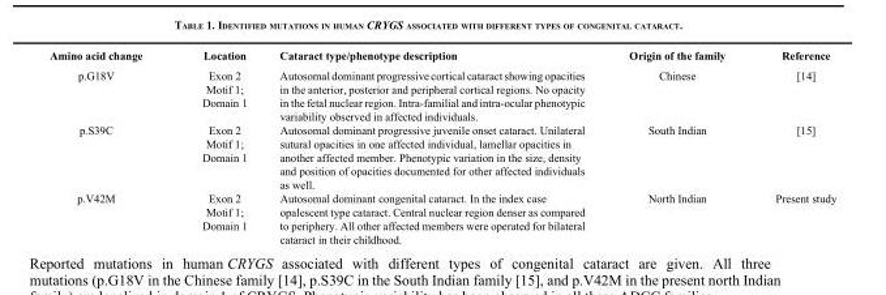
<table><thead><tr><td>Amino acid change</td><td>Location</td><td>Cataract type/phenotype description</td><td>Origin of the family</td><td>Reference</td></tr></thead><tbody><tr><td>p.G18V</td><td>Exon 2 Motif 1; Domain 1</td><td>Autosomal dominant progressive cortical cataract showing opacities in the anterior, posterior and peripheral cortical regions. No opacity in the fetal nuclear region. Intra-familial and intra-ocular phenotypic variability observed in affected individuals.</td><td>Chinese</td><td>[14]</td></tr><tr><td>p.S39C</td><td>Exon 2 Motif 1; Domain 1</td><td>Autosomal dominant progressive juvenile onset cataract. Unilateral sutural opacities in one affected individual, lamellar opacities in another affected member. Phenotypic variation in the size, density and position of opacities documented for other affected individuals as well.</td><td>South Indian</td><td>[15]</td></tr><tr><td>p.V42M</td><td>Exon 2 Motif 1; Domain 1</td><td>Autosomal dominant congenital cataract. In the index case opalescent type cataract. Central nuclear region denser as compared to periphery. All other affected members were operated for bilateral cataract in their childhood.</td><td>North Indian</td><td>Present study</td></tr></tbody></table>